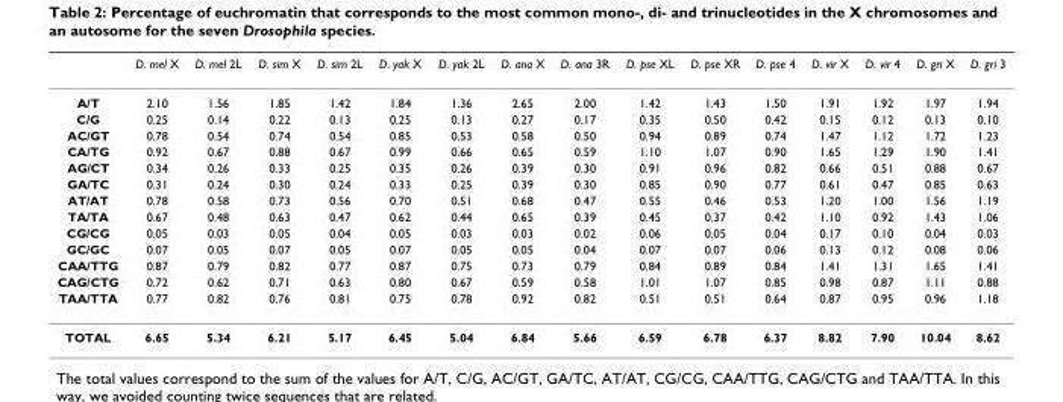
<table><thead><tr><td></td><td>D. mel X</td><td>D. mel 2L</td><td>D. sim X</td><td>D. sim 2L</td><td>D. yak X</td><td>D. yak 2L</td><td>D. ana X</td><td>D. ana 3R</td><td>D. pse XL</td><td>D. pse XR</td><td>D. pse 4</td><td>D. vir X</td><td>D. vir 4</td><td>D. gri X</td><td>D. gri 3</td></tr></thead><tbody><tr><td>A/T</td><td>2.10</td><td>1.56</td><td>1.85</td><td>1.42</td><td>1.84</td><td>1.36</td><td>2.65</td><td>2.00</td><td>1.42</td><td>1.43</td><td>1.50</td><td>1.91</td><td>1.92</td><td>1.97</td><td>1.94</td></tr><tr><td>C/G</td><td>0.25</td><td>0.14</td><td>0.22</td><td>0.13</td><td>0.25</td><td>0.13</td><td>0.27</td><td>0.17</td><td>0.35</td><td>0.50</td><td>0.42</td><td>0.15</td><td>0.12</td><td>0.13</td><td>0.10</td></tr><tr><td>AC/GT</td><td>0.78</td><td>0.54</td><td>0.74</td><td>0.54</td><td>0.85</td><td>0.53</td><td>0.58</td><td>0.50</td><td>0.94</td><td>0.89</td><td>0.74</td><td>1.47</td><td>1.12</td><td>1.72</td><td>1.23</td></tr><tr><td>CA/TG</td><td>0.92</td><td>0.67</td><td>0.88</td><td>0.67</td><td>0.99</td><td>0.66</td><td>0.65</td><td>0.59</td><td>1.10</td><td>1.07</td><td>0.90</td><td>1.65</td><td>1.29</td><td>1.90</td><td>1.41</td></tr><tr><td>AG/CT</td><td>0.34</td><td>0.26</td><td>0.33</td><td>0.25</td><td>0.35</td><td>0.26</td><td>0.39</td><td>0.30</td><td>0.91</td><td>0.96</td><td>0.82</td><td>0.66</td><td>0.51</td><td>0.88</td><td>0.67</td></tr><tr><td>GA/TC</td><td>0.31</td><td>0.24</td><td>0.30</td><td>0.24</td><td>0.33</td><td>0.25</td><td>0.39</td><td>0.30</td><td>0.85</td><td>0.90</td><td>0.77</td><td>0.61</td><td>0.47</td><td>0.85</td><td>0.63</td></tr><tr><td>AT/AT</td><td>0.78</td><td>0.58</td><td>0.73</td><td>0.56</td><td>0.70</td><td>0.51</td><td>0.68</td><td>0.47</td><td>0.55</td><td>0.46</td><td>0.53</td><td>1.20</td><td>1.00</td><td>1.56</td><td>1.19</td></tr><tr><td>TA/TA</td><td>0.67</td><td>0.48</td><td>0.63</td><td>0.47</td><td>0.62</td><td>0.44</td><td>0.65</td><td>0.39</td><td>0.45</td><td>0.37</td><td>0.42</td><td>1.10</td><td>0.92</td><td>1.43</td><td>1.06</td></tr><tr><td>CG/CG</td><td>0.05</td><td>0.03</td><td>0.05</td><td>0.04</td><td>0.05</td><td>0.03</td><td>0.03</td><td>0.02</td><td>0.06</td><td>0.05</td><td>0.04</td><td>0.17</td><td>0.10</td><td>0.04</td><td>0.03</td></tr><tr><td>GC/GC</td><td>0.07</td><td>0.05</td><td>0.07</td><td>0.05</td><td>0.07</td><td>0.05</td><td>0.05</td><td>0.04</td><td>0.07</td><td>0.07</td><td>0.06</td><td>0.13</td><td>0.12</td><td>0.08</td><td>0.06</td></tr><tr><td>CAA/TTG</td><td>0.87</td><td>0.79</td><td>0.82</td><td>0.77</td><td>0.87</td><td>0.75</td><td>0.73</td><td>0.79</td><td>0.84</td><td>0.89</td><td>0.84</td><td>1.41</td><td>1.31</td><td>1.65</td><td>1.41</td></tr><tr><td>CAG/CTG</td><td>0.72</td><td>0.62</td><td>0.71</td><td>0.63</td><td>0.80</td><td>0.67</td><td>0.59</td><td>0.58</td><td>1.01</td><td>1.07</td><td>0.85</td><td>0.98</td><td>0.87</td><td>1.11</td><td>0.88</td></tr><tr><td>TAA/TTA</td><td>0.77</td><td>0.82</td><td>0.76</td><td>0.81</td><td>0.75</td><td>0.78</td><td>0.92</td><td>0.82</td><td>0.51</td><td>0.51</td><td>0.64</td><td>0.87</td><td>0.95</td><td>0.96</td><td>1.18</td></tr><tr><td>TOTAL</td><td>6.65</td><td>5.34</td><td>6.21</td><td>5.17</td><td>6.45</td><td>5.04</td><td>6.84</td><td>5.66</td><td>6.59</td><td>6.78</td><td>6.37</td><td>8.82</td><td>7.90</td><td>10.04</td><td>8.62</td></tr></tbody></table>